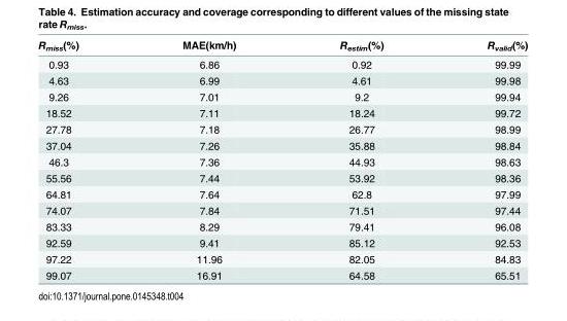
<table><thead><tr><td>R<sub>miss</sub>(%)</td><td>MAE(km/h)</td><td>R<sub>estim</sub>(%)</td><td>R<sub>valid</sub>(%)</td></tr></thead><tbody><tr><td>0.93</td><td>6.86</td><td>0.92</td><td>99.99</td></tr><tr><td>4.63</td><td>6.99</td><td>4.61</td><td>99.98</td></tr><tr><td>9.26</td><td>7.01</td><td>9.2</td><td>99.94</td></tr><tr><td>18.52</td><td>7.11</td><td>18.24</td><td>99.72</td></tr><tr><td>27.78</td><td>7.18</td><td>26.77</td><td>98.99</td></tr><tr><td>37.04</td><td>7.26</td><td>35.88</td><td>98.84</td></tr><tr><td>46.3</td><td>7.36</td><td>44.93</td><td>98.63</td></tr><tr><td>55.56</td><td>7.44</td><td>53.92</td><td>98.36</td></tr><tr><td>64.81</td><td>7.64</td><td>62.8</td><td>97.99</td></tr><tr><td>74.07</td><td>7.84</td><td>71.51</td><td>97.44</td></tr><tr><td>83.33</td><td>8.29</td><td>79.41</td><td>96.08</td></tr><tr><td>92.59</td><td>9.41</td><td>85.12</td><td>92.53</td></tr><tr><td>97.22</td><td>11.96</td><td>82.05</td><td>84.83</td></tr><tr><td>99.07</td><td>16.91</td><td>64.58</td><td>65.51</td></tr></tbody></table>